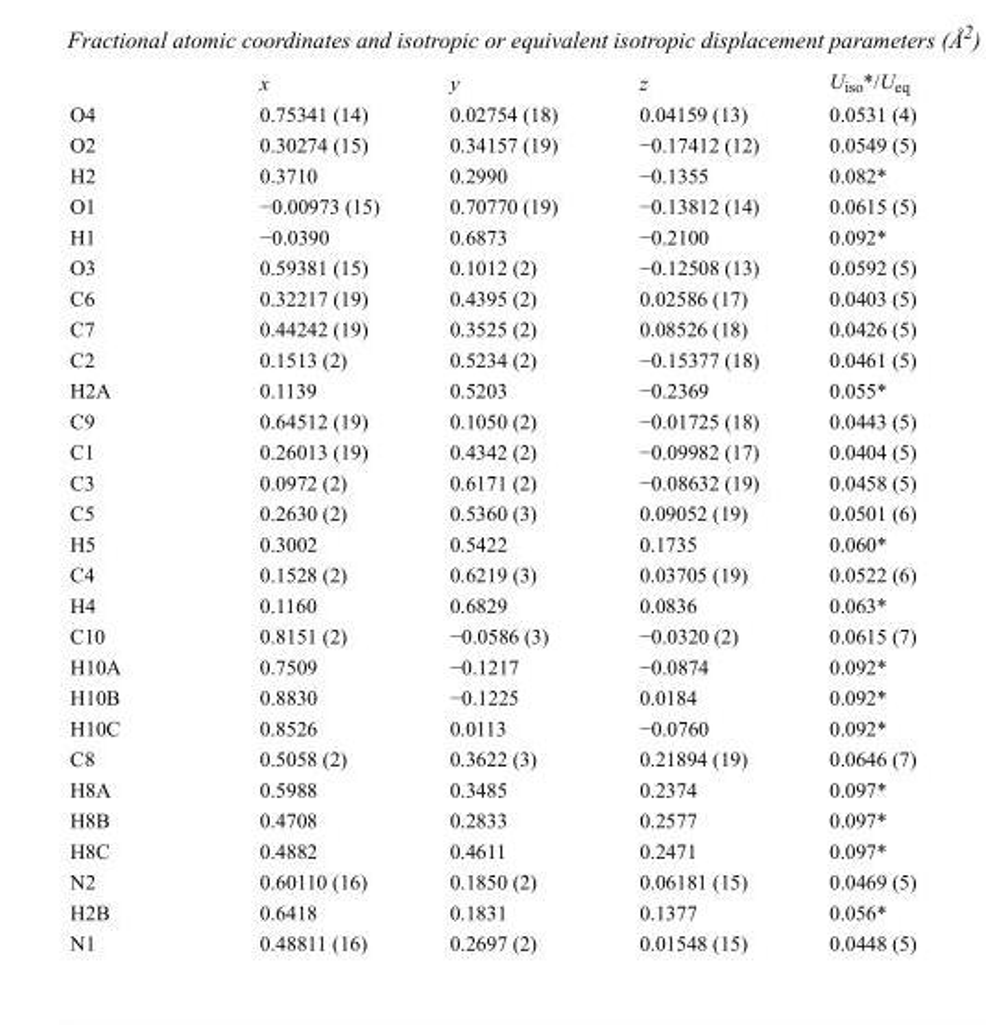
<table><thead><tr><td></td><td>x</td><td>y</td><td>z</td><td>U<sub>iso</sub>*/U<sub>eq</sub></td></tr></thead><tbody><tr><td>O4</td><td>0.75341 (14)</td><td>0.02754 (18)</td><td>0.04159 (13)</td><td>0.0531 (4)</td></tr><tr><td>O2</td><td>0.30274 (15)</td><td>0.34157 (19)</td><td>−0.17412 (12)</td><td>0.0549 (5)</td></tr><tr><td>H2</td><td>0.3710</td><td>0.2990</td><td>−0.1355</td><td>0.082*</td></tr><tr><td>O1</td><td>−0.00973 (15)</td><td>0.70770 (19)</td><td>−0.13812 (14)</td><td>0.0615 (5)</td></tr><tr><td>H1</td><td>−0.0390</td><td>0.6873</td><td>−0.2100</td><td>0.092*</td></tr><tr><td>O3</td><td>0.59381 (15)</td><td>0.1012 (2)</td><td>−0.12508 (13)</td><td>0.0592 (5)</td></tr><tr><td>C6</td><td>0.32217 (19)</td><td>0.4395 (2)</td><td>0.02586 (17)</td><td>0.0403 (5)</td></tr><tr><td>C7</td><td>0.44242 (19)</td><td>0.3525 (2)</td><td>0.08526 (18)</td><td>0.0426 (5)</td></tr><tr><td>C2</td><td>0.1513 (2)</td><td>0.5234 (2)</td><td>−0.15377 (18)</td><td>0.0461 (5)</td></tr><tr><td>H2A</td><td>0.1139</td><td>0.5203</td><td>−0.2369</td><td>0.055*</td></tr><tr><td>C9</td><td>0.64512 (19)</td><td>0.1050 (2)</td><td>−0.01725 (18)</td><td>0.0443 (5)</td></tr><tr><td>C1</td><td>0.26013 (19)</td><td>0.4342 (2)</td><td>−0.09982 (17)</td><td>0.0404 (5)</td></tr><tr><td>C3</td><td>0.0972 (2)</td><td>0.6171 (2)</td><td>−0.08632 (19)</td><td>0.0458 (5)</td></tr><tr><td>C5</td><td>0.2630 (2)</td><td>0.5360 (3)</td><td>0.09052 (19)</td><td>0.0501 (6)</td></tr><tr><td>H5</td><td>0.3002</td><td>0.5422</td><td>0.1735</td><td>0.060*</td></tr><tr><td>C4</td><td>0.1528 (2)</td><td>0.6219 (3)</td><td>0.03705 (19)</td><td>0.0522 (6)</td></tr><tr><td>H4</td><td>0.1160</td><td>0.6829</td><td>0.0836</td><td>0.063*</td></tr><tr><td>C10</td><td>0.8151 (2)</td><td>−0.0586 (3)</td><td>−0.0320 (2)</td><td>0.0615 (7)</td></tr><tr><td>H10A</td><td>0.7509</td><td>−0.1217</td><td>−0.0874</td><td>0.092*</td></tr><tr><td>H10B</td><td>0.8830</td><td>−0.1225</td><td>0.0184</td><td>0.092*</td></tr><tr><td>H10C</td><td>0.8526</td><td>0.0113</td><td>−0.0760</td><td>0.092*</td></tr><tr><td>C8</td><td>0.5058 (2)</td><td>0.3622 (3)</td><td>0.21894 (19)</td><td>0.0646 (7)</td></tr><tr><td>H8A</td><td>0.5988</td><td>0.3485</td><td>0.2374</td><td>0.097*</td></tr><tr><td>H8B</td><td>0.4708</td><td>0.2833</td><td>0.2577</td><td>0.097*</td></tr><tr><td>H8C</td><td>0.4882</td><td>0.4611</td><td>0.2471</td><td>0.097*</td></tr><tr><td>N2</td><td>0.60110 (16)</td><td>0.1850 (2)</td><td>0.06181 (15)</td><td>0.0469 (5)</td></tr><tr><td>H2B</td><td>0.6418</td><td>0.1831</td><td>0.1377</td><td>0.056*</td></tr><tr><td>N1</td><td>0.48811 (16)</td><td>0.2697 (2)</td><td>0.01548 (15)</td><td>0.0448 (5)</td></tr></tbody></table>